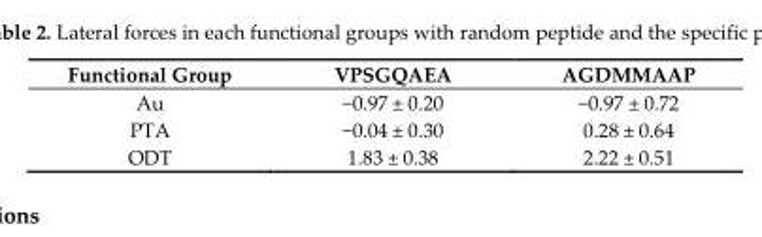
<table><thead><tr><td>Functional Group</td><td>VPSGQAEA</td><td>AGDMMAAP</td></tr></thead><tbody><tr><td>Au</td><td>−0.97 ± 0.20</td><td>−0.97 ± 0.72</td></tr><tr><td>PTA</td><td>−0.04 ± 0.30</td><td>0.28 ± 0.64</td></tr><tr><td>ODT</td><td>1.83 ± 0.38</td><td>2.22 ± 0.51</td></tr></tbody></table>